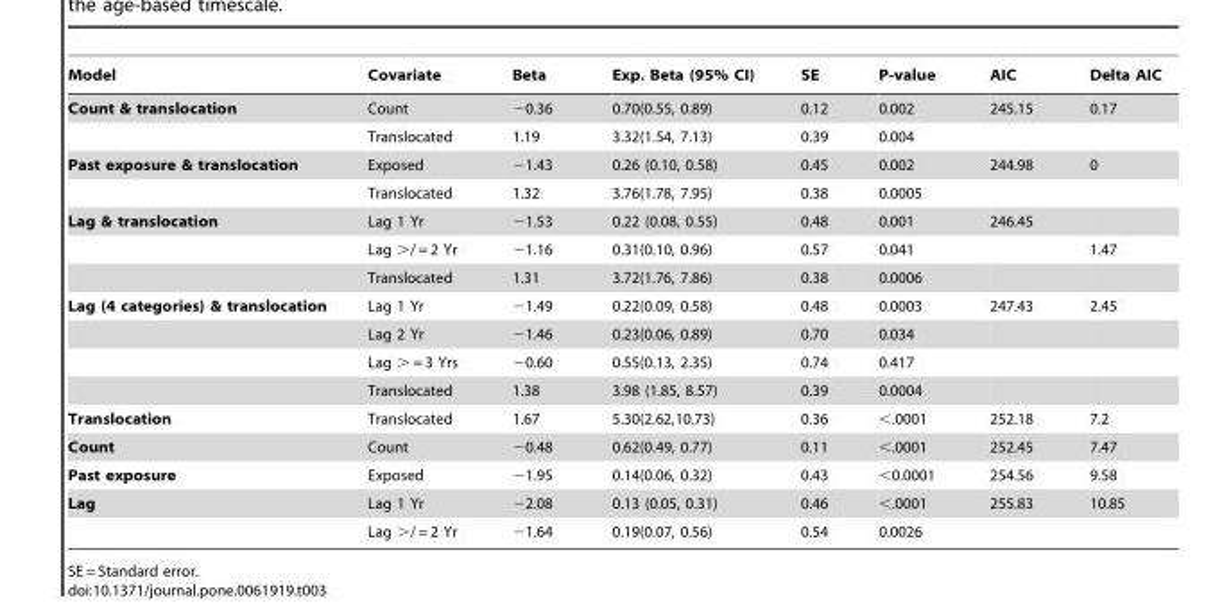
<table><thead><tr><td>Model</td><td>Covariate</td><td>Beta</td><td>Exp. Beta (95% CI)</td><td>SE</td><td>P-value</td><td>AIC</td><td>Delta AIC</td></tr></thead><tbody><tr><td rowspan="2">Count &amp; translocation</td><td>Count</td><td>−0.36</td><td>0.70(0.55, 0.89)</td><td>0.12</td><td>0.002</td><td>245.15</td><td>0.17</td></tr><tr><td>Translocated</td><td>1.19</td><td>3.32(1.54, 7.13)</td><td>0.39</td><td>0.004</td><td></td><td></td></tr><tr><td rowspan="2">Past exposure &amp; translocation</td><td>Exposed</td><td>−1.43</td><td>0.26 (0.10, 0.58)</td><td>0.45</td><td>0.002</td><td>244.98</td><td>0</td></tr><tr><td>Translocated</td><td>1.32</td><td>3.76(1.78, 7.95)</td><td>0.38</td><td>0.0005</td><td></td><td></td></tr><tr><td rowspan="3">Lag &amp; translocation</td><td>Lag 1 Yr</td><td>−1.53</td><td>0.22 (0.08, 0.55)</td><td>0.48</td><td>0.001</td><td>246.45</td><td></td></tr><tr><td>Lag &gt;/ = 2 Yr</td><td>−1.16</td><td>0.31(0.10, 0.96)</td><td>0.57</td><td>0.041</td><td></td><td>1.47</td></tr><tr><td>Translocated</td><td>1.31</td><td>3.72(1.76, 7.86)</td><td>0.38</td><td>0.0006</td><td></td><td></td></tr><tr><td rowspan="4">Lag (4 categories) &amp; translocation</td><td>Lag 1 Yr</td><td>−1.49</td><td>0.22(0.09, 0.58)</td><td>0.48</td><td>0.0003</td><td>247.43</td><td>2.45</td></tr><tr><td>Lag 2 Yr</td><td>−1.46</td><td>0.23(0.06, 0.89)</td><td>0.70</td><td>0.034</td><td></td><td></td></tr><tr><td>Lag &gt; = 3 Yrs</td><td>−0.60</td><td>0.55(0.13, 2.35)</td><td>0.74</td><td>0.417</td><td></td><td></td></tr><tr><td>Translocated</td><td>1.38</td><td>3.98 (1.85, 8.57)</td><td>0.39</td><td>0.0004</td><td></td><td></td></tr><tr><td>Translocation</td><td>Translocated</td><td>1.67</td><td>5.30(2.62,10.73)</td><td>0.36</td><td>&lt;.0001</td><td>252.18</td><td>7.2</td></tr><tr><td>Count</td><td>Count</td><td>−0.48</td><td>0.62(0.49, 0.77)</td><td>0.11</td><td>&lt;.0001</td><td>252.45</td><td>7.47</td></tr><tr><td>Past exposure</td><td>Exposed</td><td>−1.95</td><td>0.14(0.06, 0.32)</td><td>0.43</td><td>&lt;0.0001</td><td>254.56</td><td>9.58</td></tr><tr><td rowspan="2">Lag</td><td>Lag 1 Yr</td><td>−2.08</td><td>0.13 (0.05, 0.31)</td><td>0.46</td><td>&lt;.0001</td><td>255.83</td><td>10.85</td></tr><tr><td>Lag &gt;/ = 2 Yr</td><td>−1.64</td><td>0.19(0.07, 0.56)</td><td>0.54</td><td>0.0026</td><td></td><td></td></tr></tbody></table>